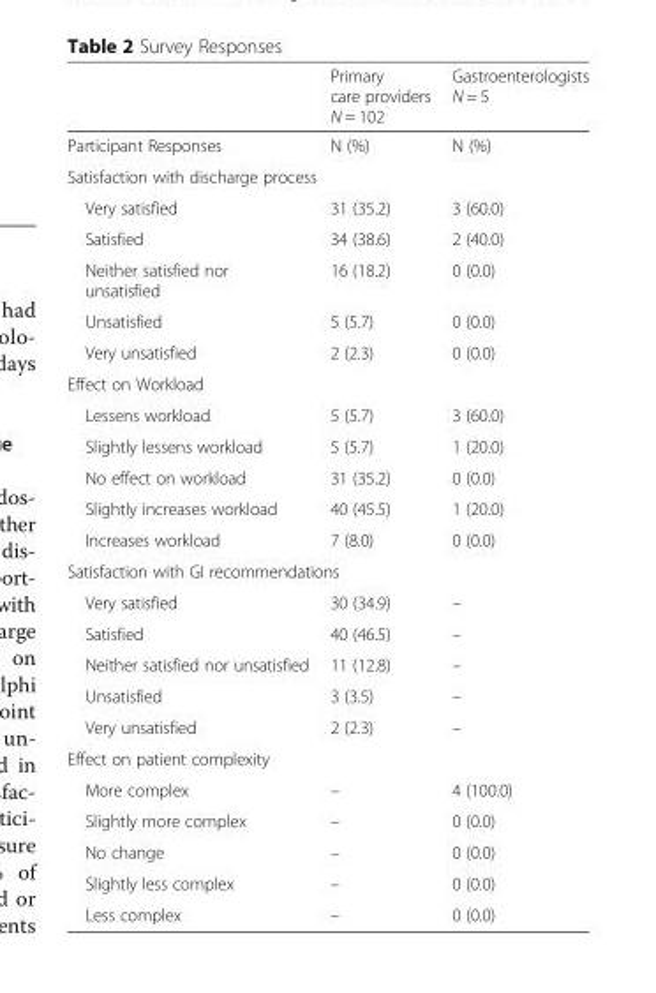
<table><thead><tr><td></td><td>Primary care providers N = 102</td><td>Gastroenterologists N = 5</td></tr></thead><tbody><tr><td>Participant Responses</td><td>N (%)</td><td>N (%)</td></tr><tr><td colspan="3">Satisfaction with discharge process</td></tr><tr><td>Very satisfied</td><td>31 (35.2)</td><td>3 (60.0)</td></tr><tr><td>Satisfied</td><td>34 (38.6)</td><td>2 (40.0)</td></tr><tr><td>Neither satisfied nor unsatisfied</td><td>16 (18.2)</td><td>0 (0.0)</td></tr><tr><td>Unsatisfied</td><td>5 (5.7)</td><td>0 (0.0)</td></tr><tr><td>Very unsatisfied</td><td>2 (2.3)</td><td>0 (0.0)</td></tr><tr><td colspan="3">Effect on Workload</td></tr><tr><td>Lessens workload</td><td>5 (5.7)</td><td>3 (60.0)</td></tr><tr><td>Slightly lessens workload</td><td>5 (5.7)</td><td>1 (20.0)</td></tr><tr><td>No effect on workload</td><td>31 (35.2)</td><td>0 (0.0)</td></tr><tr><td>Slightly increases workload</td><td>40 (45.5)</td><td>1 (20.0)</td></tr><tr><td>Increases workload</td><td>7 (8.0)</td><td>0 (0.0)</td></tr><tr><td colspan="3">Satisfaction with GI recommendations</td></tr><tr><td>Very satisfied</td><td>30 (34.9)</td><td>–</td></tr><tr><td>Satisfied</td><td>40 (46.5)</td><td>–</td></tr><tr><td>Neither satisfied nor unsatisfied</td><td>11 (12.8)</td><td>–</td></tr><tr><td>Unsatisfied</td><td>3 (3.5)</td><td>–</td></tr><tr><td>Very unsatisfied</td><td>2 (2.3)</td><td>–</td></tr><tr><td colspan="3">Effect on patient complexity</td></tr><tr><td>More complex</td><td>–</td><td>4 (100.0)</td></tr><tr><td>Slightly more complex</td><td>–</td><td>0 (0.0)</td></tr><tr><td>No change</td><td>–</td><td>0 (0.0)</td></tr><tr><td>Slightly less complex</td><td>–</td><td>0 (0.0)</td></tr><tr><td>Less complex</td><td>–</td><td>0 (0.0)</td></tr></tbody></table>